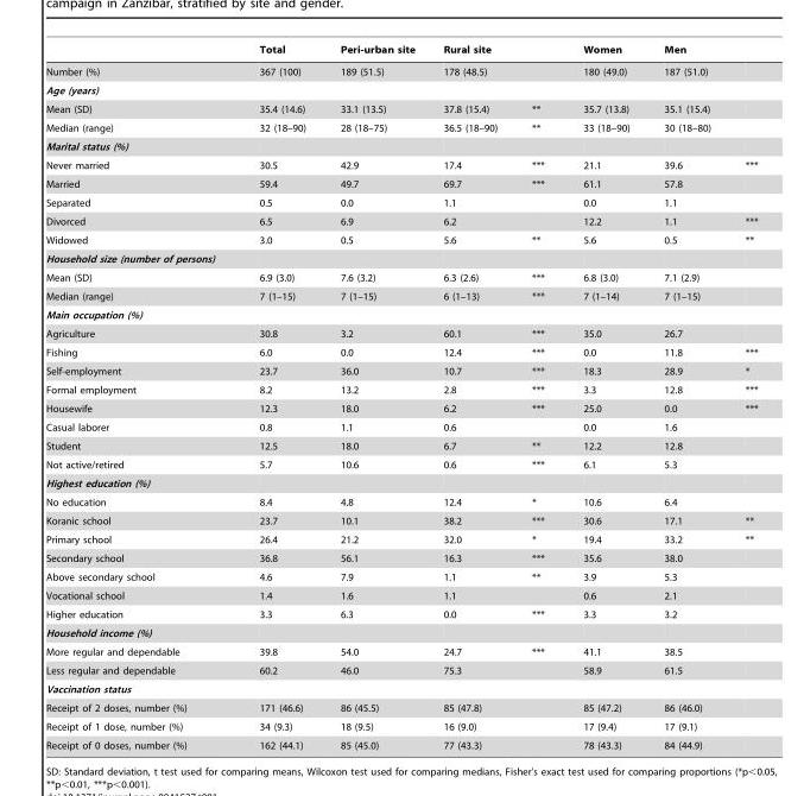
<table><thead><tr><td></td><td>Total</td><td>Peri-urban site</td><td>Rural site</td><td></td><td>Women</td><td>Men</td><td></td></tr></thead><tbody><tr><td>Number (%)</td><td>367 (100)</td><td>189 (51.5)</td><td>178 (48.5)</td><td></td><td>180 (49.0)</td><td>187 (51.0)</td><td></td></tr><tr><td colspan="8">Age (years)</td></tr><tr><td>Mean (SD)</td><td>35.4 (14.6)</td><td>33.1 (13.5)</td><td>37.8 (15.4)</td><td>**</td><td>35.7 (13.8)</td><td>35.1 (15.4)</td><td></td></tr><tr><td>Median (range)</td><td>32 (18–90)</td><td>28 (18–75)</td><td>36.5 (18–90)</td><td>**</td><td>33 (18–90)</td><td>30 (18–80)</td><td></td></tr><tr><td colspan="8">Marital status (%)</td></tr><tr><td>Never married</td><td>30.5</td><td>42.9</td><td>17.4</td><td>***</td><td>21.1</td><td>39.6</td><td>***</td></tr><tr><td>Married</td><td>59.4</td><td>49.7</td><td>69.7</td><td>***</td><td>61.1</td><td>57.8</td><td></td></tr><tr><td>Separated</td><td>0.5</td><td>0.0</td><td>1.1</td><td></td><td>0.0</td><td>1.1</td><td></td></tr><tr><td>Divorced</td><td>6.5</td><td>6.9</td><td>6.2</td><td></td><td>12.2</td><td>1.1</td><td>***</td></tr><tr><td>Widowed</td><td>3.0</td><td>0.5</td><td>5.6</td><td>**</td><td>5.6</td><td>0.5</td><td>**</td></tr><tr><td colspan="8">Household size (number of persons)</td></tr><tr><td>Mean (SD)</td><td>6.9 (3.0)</td><td>7.6 (3.2)</td><td>6.3 (2.6)</td><td>***</td><td>6.8 (3.0)</td><td>7.1 (2.9)</td><td></td></tr><tr><td>Median (range)</td><td>7 (1–15)</td><td>7 (1–15)</td><td>6 (1–13)</td><td>***</td><td>7 (1–14)</td><td>7 (1–15)</td><td></td></tr><tr><td colspan="8">Main occupation (%)</td></tr><tr><td>Agriculture</td><td>30.8</td><td>3.2</td><td>60.1</td><td>***</td><td>35.0</td><td>26.7</td><td></td></tr><tr><td>Fishing</td><td>6.0</td><td>0.0</td><td>12.4</td><td>***</td><td>0.0</td><td>11.8</td><td>***</td></tr><tr><td>Self-employment</td><td>23.7</td><td>36.0</td><td>10.7</td><td>***</td><td>18.3</td><td>28.9</td><td>*</td></tr><tr><td>Formal employment</td><td>8.2</td><td>13.2</td><td>2.8</td><td>***</td><td>3.3</td><td>12.8</td><td>***</td></tr><tr><td>Housewife</td><td>12.3</td><td>18.0</td><td>6.2</td><td>***</td><td>25.0</td><td>0.0</td><td>***</td></tr><tr><td>Casual laborer</td><td>0.8</td><td>1.1</td><td>0.6</td><td></td><td>0.0</td><td>1.6</td><td></td></tr><tr><td>Student</td><td>12.5</td><td>18.0</td><td>6.7</td><td>**</td><td>12.2</td><td>12.8</td><td></td></tr><tr><td>Not active/retired</td><td>5.7</td><td>10.6</td><td>0.6</td><td>***</td><td>6.1</td><td>5.3</td><td></td></tr><tr><td colspan="8">Highest education (%)</td></tr><tr><td>No education</td><td>8.4</td><td>4.8</td><td>12.4</td><td>*</td><td>10.6</td><td>6.4</td><td></td></tr><tr><td>Koranic school</td><td>23.7</td><td>10.1</td><td>38.2</td><td>***</td><td>30.6</td><td>17.1</td><td>**</td></tr><tr><td>Primary school</td><td>26.4</td><td>21.2</td><td>32.0</td><td>*</td><td>19.4</td><td>33.2</td><td>**</td></tr><tr><td>Secondary school</td><td>36.8</td><td>56.1</td><td>16.3</td><td>***</td><td>35.6</td><td>38.0</td><td></td></tr><tr><td>Above secondary school</td><td>4.6</td><td>7.9</td><td>1.1</td><td>**</td><td>3.9</td><td>5.3</td><td></td></tr><tr><td>Vocational school</td><td>1.4</td><td>1.6</td><td>1.1</td><td></td><td>0.6</td><td>2.1</td><td></td></tr><tr><td>Higher education</td><td>3.3</td><td>6.3</td><td>0.0</td><td>***</td><td>3.3</td><td>3.2</td><td></td></tr><tr><td colspan="8">Household income (%)</td></tr><tr><td>More regular and dependable</td><td>39.8</td><td>54.0</td><td>24.7</td><td>***</td><td>41.1</td><td>38.5</td><td></td></tr><tr><td>Less regular and dependable</td><td>60.2</td><td>46.0</td><td>75.3</td><td></td><td>58.9</td><td>61.5</td><td></td></tr><tr><td colspan="8">Vaccination status</td></tr><tr><td>Receipt of 2 doses, number (%)</td><td>171 (46.6)</td><td>86 (45.5)</td><td>85 (47.8)</td><td></td><td>85 (47.2)</td><td>86 (46.0)</td><td></td></tr><tr><td>Receipt of 1 dose, number (%)</td><td>34 (9.3)</td><td>18 (9.5)</td><td>16 (9.0)</td><td></td><td>17 (9.4)</td><td>17 (9.1)</td><td></td></tr><tr><td>Receipt of 0 doses, number (%)</td><td>162 (44.1)</td><td>85 (45.0)</td><td>77 (43.3)</td><td></td><td>78 (43.3)</td><td>84 (44.9)</td><td></td></tr></tbody></table>